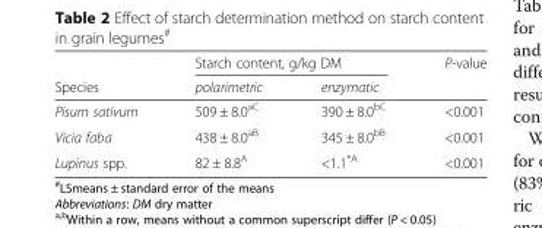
<table><thead><tr><td rowspan="2">Species</td><td colspan="2">Starch content, g/kg DM</td><td rowspan="2">P-value</td></tr><tr><td>polarimetric</td><td>enzymatic</td></tr></thead><tbody><tr><td>Pisum sativum</td><td>509 ± 8.0<sup>aC</sup></td><td>390 ± 8.0<sup>bC</sup></td><td>&lt;0.001</td></tr><tr><td>Vicia faba</td><td>438 ± 8.0<sup>aB</sup></td><td>345 ± 8.0<sup>bB</sup></td><td>&lt;0.001</td></tr><tr><td>Lupinus spp.</td><td>82 ± 8.8<sup>A</sup></td><td>&lt;1.1<sup>*A</sup></td><td>&lt;0.001</td></tr></tbody></table>